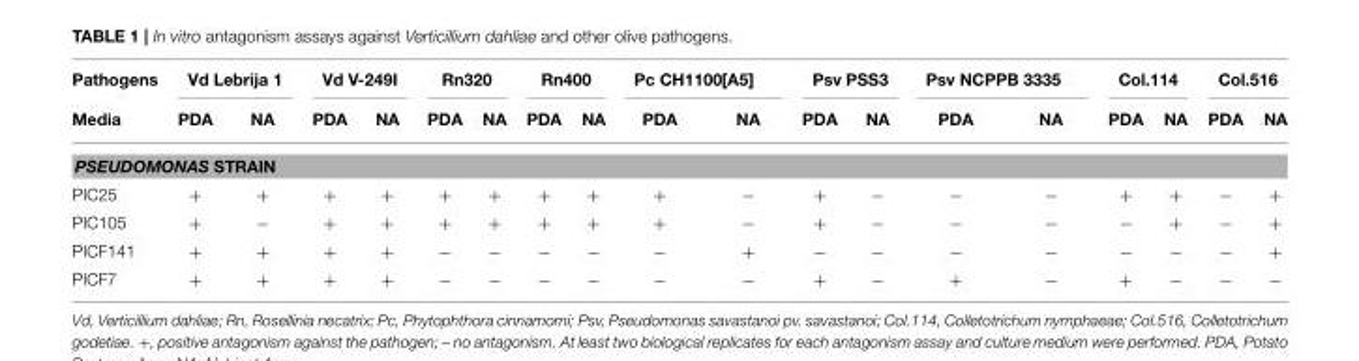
<table><thead><tr><td rowspan="2">Pathogens Media</td><td colspan="2">Vd Lebrija 1</td><td colspan="2">Vd V-249I</td><td colspan="2">Rn320</td><td colspan="2">Rn400</td><td colspan="2">Pc CH1100[A5]</td><td colspan="2">Psv PSS3</td><td colspan="2">Psv NCPPB 3335</td><td colspan="2">Col.114</td><td colspan="2">Col.516</td></tr><tr><td>PDA</td><td>NA</td><td>PDA</td><td>NA</td><td>PDA</td><td>NA</td><td>PDA</td><td>NA</td><td>PDA</td><td>NA</td><td>PDA</td><td>NA</td><td>PDA</td><td>NA</td><td>PDA</td><td>NA</td><td>PDA</td><td>NA</td></tr></thead><tbody><tr><td colspan="19">PSEUDOMONAS STRAIN</td></tr><tr><td>PIC25</td><td>+</td><td>+</td><td>+</td><td>+</td><td>+</td><td>+</td><td>+</td><td>+</td><td>+</td><td>−</td><td>+</td><td>−</td><td>−</td><td>−</td><td>+</td><td>+</td><td>−</td><td>+</td></tr><tr><td>PIC105</td><td>+</td><td>−</td><td>+</td><td>+</td><td>+</td><td>+</td><td>+</td><td>+</td><td>+</td><td>−</td><td>+</td><td>−</td><td>−</td><td>−</td><td>−</td><td>+</td><td>−</td><td>+</td></tr><tr><td>PICF141</td><td>+</td><td>+</td><td>+</td><td>+</td><td>−</td><td>−</td><td>−</td><td>−</td><td>−</td><td>+</td><td>−</td><td>−</td><td>−</td><td>−</td><td>−</td><td>−</td><td>−</td><td>+</td></tr><tr><td>PICF7</td><td>+</td><td>+</td><td>+</td><td>+</td><td>−</td><td>−</td><td>−</td><td>−</td><td>−</td><td>−</td><td>+</td><td>−</td><td>+</td><td>−</td><td>+</td><td>−</td><td>−</td><td>−</td></tr></tbody></table>